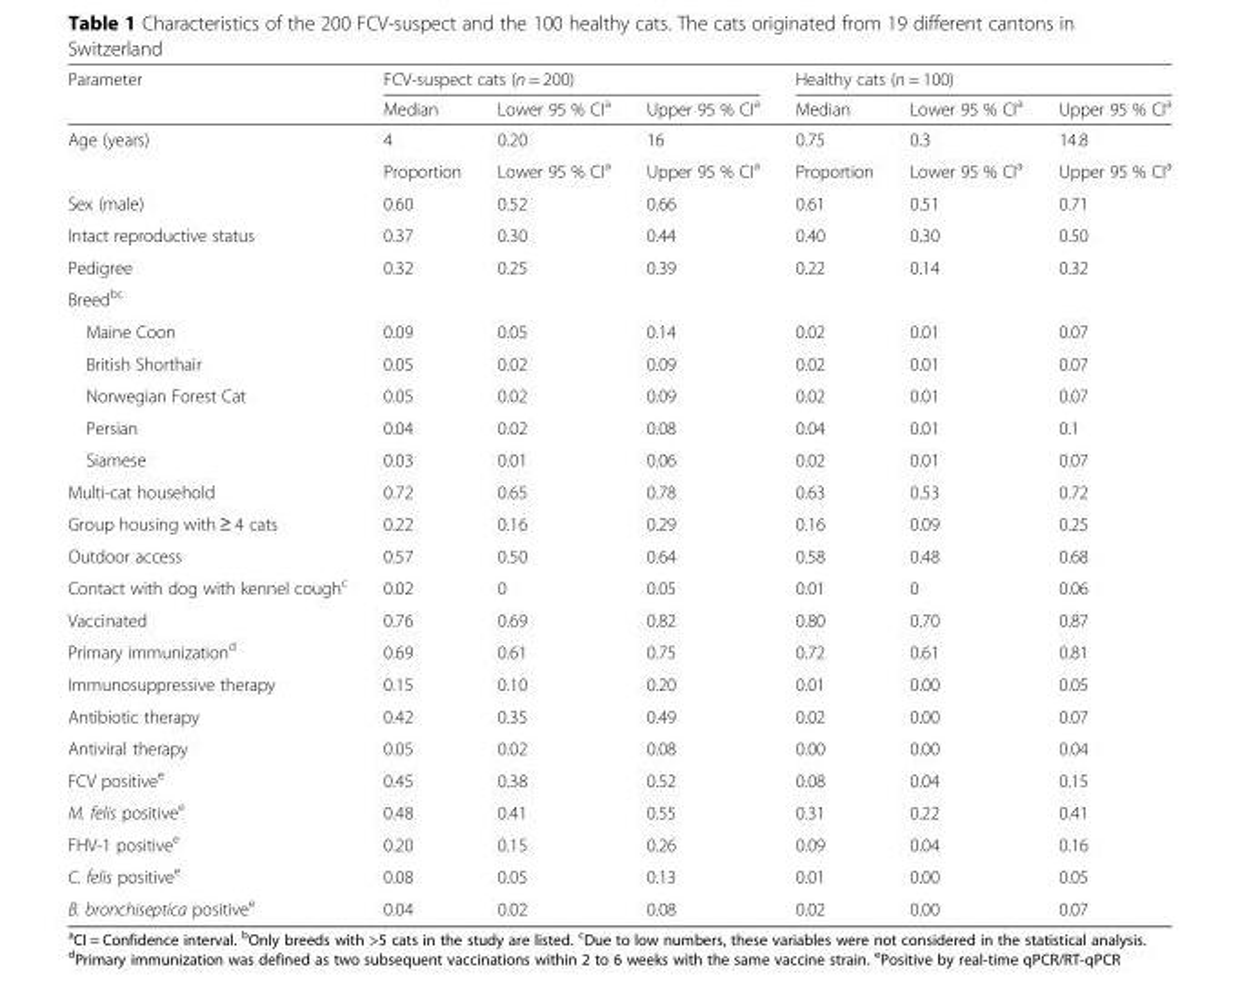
<table><thead><tr><td rowspan="2">Parameter</td><td colspan="3">FCV-suspect cats (n = 200)</td><td colspan="3">Healthy cats (n = 100)</td></tr><tr><td>Median</td><td>Lower 95 % CI<sup>a</sup></td><td>Upper 95 % CI<sup>a</sup></td><td>Median</td><td>Lower 95 % CI<sup>a</sup></td><td>Upper 95 % CI<sup>a</sup></td></tr></thead><tbody><tr><td rowspan="2">Age (years)</td><td>4</td><td>0.20</td><td>16</td><td>0.75</td><td>0.3</td><td>14.8</td></tr><tr><td>Proportion</td><td>Lower 95 % CI<sup>a</sup></td><td>Upper 95 % CI<sup>a</sup></td><td>Proportion</td><td>Lower 95 % CI<sup>a</sup></td><td>Upper 95 % CI<sup>a</sup></td></tr><tr><td>Sex (male)</td><td>0.60</td><td>0.52</td><td>0.66</td><td>0.61</td><td>0.51</td><td>0.71</td></tr><tr><td>Intact reproductive status</td><td>0.37</td><td>0.30</td><td>0.44</td><td>0.40</td><td>0.30</td><td>0.50</td></tr><tr><td>Pedigree</td><td>0.32</td><td>0.25</td><td>0.39</td><td>0.22</td><td>0.14</td><td>0.32</td></tr><tr><td colspan="7">Breed<sup>bc</sup></td></tr><tr><td>Maine Coon</td><td>0.09</td><td>0.05</td><td>0.14</td><td>0.02</td><td>0.01</td><td>0.07</td></tr><tr><td>British Shorthair</td><td>0.05</td><td>0.02</td><td>0.09</td><td>0.02</td><td>0.01</td><td>0.07</td></tr><tr><td>Norwegian Forest Cat</td><td>0.05</td><td>0.02</td><td>0.09</td><td>0.02</td><td>0.01</td><td>0.07</td></tr><tr><td>Persian</td><td>0.04</td><td>0.02</td><td>0.08</td><td>0.04</td><td>0.01</td><td>0.1</td></tr><tr><td>Siamese</td><td>0.03</td><td>0.01</td><td>0.06</td><td>0.02</td><td>0.01</td><td>0.07</td></tr><tr><td>Multi-cat household</td><td>0.72</td><td>0.65</td><td>0.78</td><td>0.63</td><td>0.53</td><td>0.72</td></tr><tr><td>Group housing with ≥ 4 cats</td><td>0.22</td><td>0.16</td><td>0.29</td><td>0.16</td><td>0.09</td><td>0.25</td></tr><tr><td>Outdoor access</td><td>0.57</td><td>0.50</td><td>0.64</td><td>0.58</td><td>0.48</td><td>0.68</td></tr><tr><td>Contact with dog with kennel cough<sup>c</sup></td><td>0.02</td><td>0</td><td>0.05</td><td>0.01</td><td>0</td><td>0.06</td></tr><tr><td>Vaccinated</td><td>0.76</td><td>0.69</td><td>0.82</td><td>0.80</td><td>0.70</td><td>0.87</td></tr><tr><td>Primary immunization<sup>d</sup></td><td>0.69</td><td>0.61</td><td>0.75</td><td>0.72</td><td>0.61</td><td>0.81</td></tr><tr><td>Immunosuppressive therapy</td><td>0.15</td><td>0.10</td><td>0.20</td><td>0.01</td><td>0.00</td><td>0.05</td></tr><tr><td>Antibiotic therapy</td><td>0.42</td><td>0.35</td><td>0.49</td><td>0.02</td><td>0.00</td><td>0.07</td></tr><tr><td>Antiviral therapy</td><td>0.05</td><td>0.02</td><td>0.08</td><td>0.00</td><td>0.00</td><td>0.04</td></tr><tr><td>FCV positive<sup>e</sup></td><td>0.45</td><td>0.38</td><td>0.52</td><td>0.08</td><td>0.04</td><td>0.15</td></tr><tr><td>M. felis positive<sup>e</sup></td><td>0.48</td><td>0.41</td><td>0.55</td><td>0.31</td><td>0.22</td><td>0.41</td></tr><tr><td>FHV-1 positive<sup>e</sup></td><td>0.20</td><td>0.15</td><td>0.26</td><td>0.09</td><td>0.04</td><td>0.16</td></tr><tr><td>C. felis positive<sup>e</sup></td><td>0.08</td><td>0.05</td><td>0.13</td><td>0.01</td><td>0.00</td><td>0.05</td></tr><tr><td>B. bronchiseptica positive<sup>e</sup></td><td>0.04</td><td>0.02</td><td>0.08</td><td>0.02</td><td>0.00</td><td>0.07</td></tr></tbody></table>